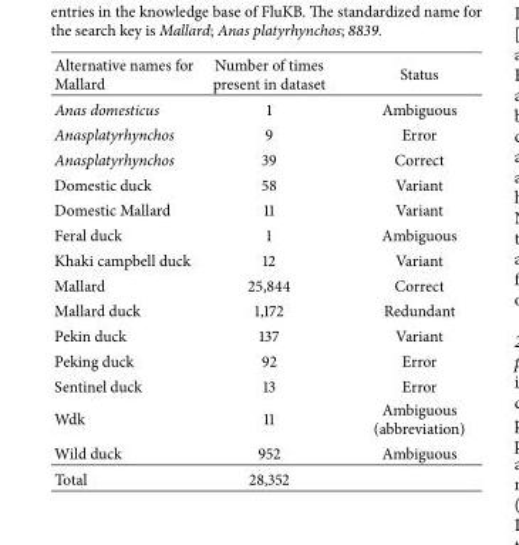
<table><tbody><tr><td>Alternative names for Mallard</td><td>Number of times present in dataset</td><td>Status</td></tr><tr><td>Anas domesticus</td><td>1</td><td>Ambiguous</td></tr><tr><td>Anasplatyrhynchos</td><td>9</td><td>Error</td></tr><tr><td>Anasplatyrhynchos</td><td>39</td><td>Correct</td></tr><tr><td>Domestic duck</td><td>58</td><td>Variant</td></tr><tr><td>Domestic Mallard</td><td>11</td><td>Variant</td></tr><tr><td>Feral duck</td><td>1</td><td>Ambiguous</td></tr><tr><td>Khaki campbell duck</td><td>12</td><td>Variant</td></tr><tr><td>Mallard</td><td>25,844</td><td>Correct</td></tr><tr><td>Mallard duck</td><td>1,172</td><td>Redundant</td></tr><tr><td>Pekin duck</td><td>137</td><td>Variant</td></tr><tr><td>Peking duck</td><td>92</td><td>Error</td></tr><tr><td>Sentinel duck</td><td>13</td><td>Error</td></tr><tr><td>Wdk</td><td>11</td><td>Ambiguous (abbreviation)</td></tr><tr><td>Wild duck</td><td>952</td><td>Ambiguous</td></tr><tr><td>Total</td><td>28,352</td><td></td></tr></tbody></table>